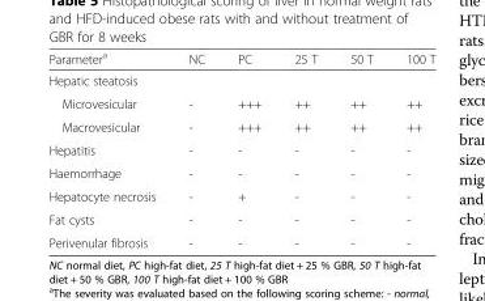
<table><thead><tr><td>Parameter<sup>a</sup></td><td>NC</td><td>PC</td><td>25 T</td><td>50 T</td><td>100 T</td></tr></thead><tbody><tr><td colspan="6">Hepatic steatosis</td></tr><tr><td>Microvesicular</td><td>-</td><td>+++</td><td>++</td><td>++</td><td>++</td></tr><tr><td>Macrovesicular</td><td>-</td><td>+++</td><td>++</td><td>++</td><td>++</td></tr><tr><td>Hepatitis</td><td>-</td><td>-</td><td>-</td><td>-</td><td>-</td></tr><tr><td>Haemorrhage</td><td>-</td><td>-</td><td>-</td><td>-</td><td>-</td></tr><tr><td>Hepatocyte necrosis</td><td>-</td><td>+</td><td>-</td><td>-</td><td>-</td></tr><tr><td>Fat cysts</td><td>-</td><td>-</td><td>-</td><td>-</td><td>-</td></tr><tr><td>Perivenular fibrosis</td><td>-</td><td>-</td><td>-</td><td>-</td><td>-</td></tr></tbody></table>